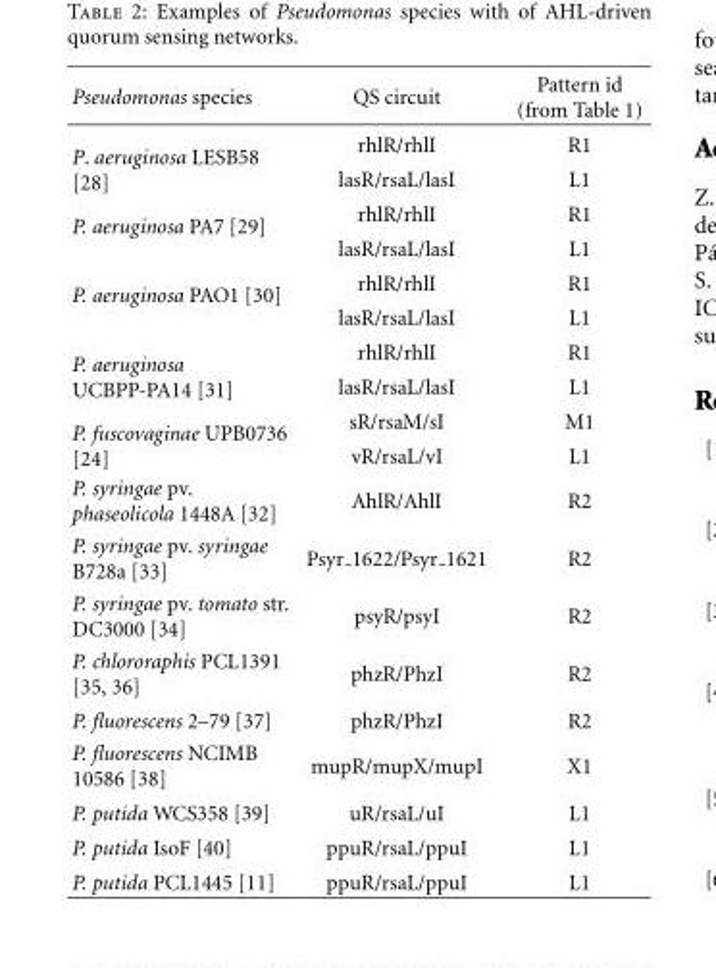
<table><thead><tr><td>Pseudomonas species</td><td>QS circuit</td><td>Pattern id (from Table 1)</td></tr></thead><tbody><tr><td rowspan="2">P. aeruginosa LESB58 [28]</td><td>rhlR/rhlI</td><td>R1</td></tr><tr><td>lasR/rsaL/lasI</td><td>L1</td></tr><tr><td rowspan="2">P. aeruginosa PA7 [29]</td><td>rhlR/rhlI</td><td>R1</td></tr><tr><td>lasR/rsaL/lasI</td><td>L1</td></tr><tr><td rowspan="2">P. aeruginosa PAO1 [30]</td><td>rhlR/rhlI</td><td>R1</td></tr><tr><td>lasR/rsaL/lasI</td><td>L1</td></tr><tr><td rowspan="2">P. aeruginosa UCBPP-PA14 [31]</td><td>rhlR/rhlI</td><td>R1</td></tr><tr><td>lasR/rsaL/lasI</td><td>L1</td></tr><tr><td rowspan="2">P. fuscovaginae UPB0736 [24]</td><td>sR/rsaM/sI</td><td>M1</td></tr><tr><td>vR/rsaL/vI</td><td>L1</td></tr><tr><td>P. syringae pv. phaseolicola 1448A [32]</td><td>AhlR/AhlI</td><td>R2</td></tr><tr><td>P. syringae pv. syringae B728a [33]</td><td>Psyr <sub>1622/Psyr</sub> 1621</td><td>R2</td></tr><tr><td>P. syringae pv. tomato str. DC3000 [34]</td><td>psyR/psyI</td><td>R2</td></tr><tr><td>P. chlororaphis PCL1391 [35, 36]</td><td>phzR/PhzI</td><td>R2</td></tr><tr><td>P. fluorescens 2–79 [37]</td><td>phzR/PhzI</td><td>R2</td></tr><tr><td>P. fluorescens NCIMB 10586 [38]</td><td>mupR/mupX/mupI</td><td>X1</td></tr><tr><td>P. putida WCS358 [39]</td><td>uR/rsaL/uI</td><td>L1</td></tr><tr><td>P. putida IsoF [40]</td><td>ppuR/rsaL/ppuI</td><td>L1</td></tr><tr><td>P. putida PCL1445 [11]</td><td>ppuR/rsaL/ppuI</td><td>L1</td></tr></tbody></table>